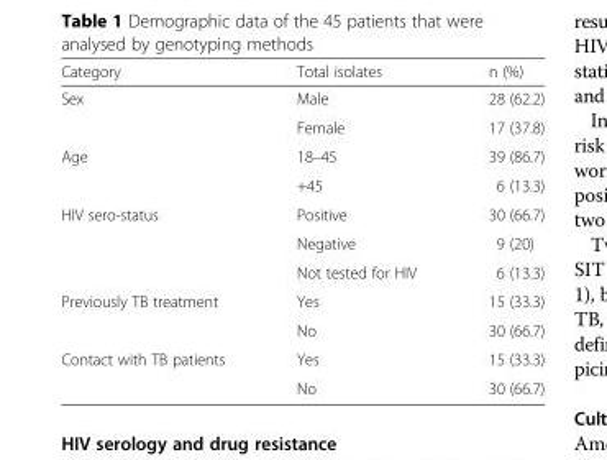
<table><thead><tr><td>Category</td><td>Total isolates</td><td>n (%)</td></tr></thead><tbody><tr><td rowspan="2">Sex</td><td>Male</td><td>28 (62.2)</td></tr><tr><td>Female</td><td>17 (37.8)</td></tr><tr><td rowspan="2">Age</td><td>18–45</td><td>39 (86.7)</td></tr><tr><td>+45</td><td>6 (13.3)</td></tr><tr><td rowspan="3">HIV sero-status</td><td>Positive</td><td>30 (66.7)</td></tr><tr><td>Negative</td><td>9 (20)</td></tr><tr><td>Not tested for HIV</td><td>6 (13.3)</td></tr><tr><td rowspan="2">Previously TB treatment</td><td>Yes</td><td>15 (33.3)</td></tr><tr><td>No</td><td>30 (66.7)</td></tr><tr><td rowspan="2">Contact with TB patients</td><td>Yes</td><td>15 (33.3)</td></tr><tr><td>No</td><td>30 (66.7)</td></tr></tbody></table>